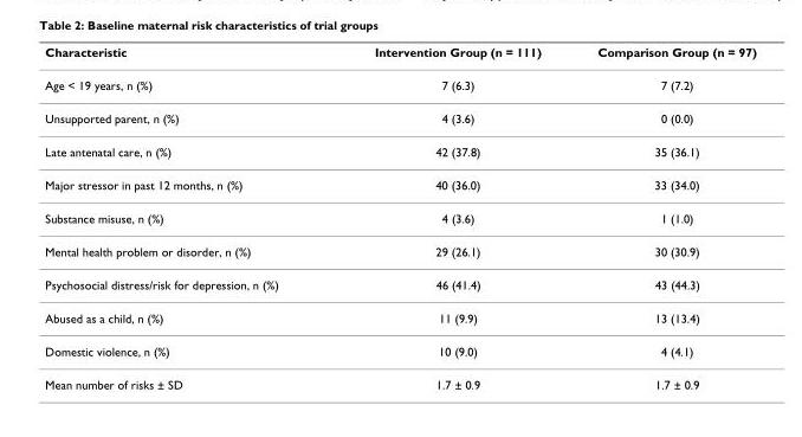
<table><thead><tr><td>Characteristic</td><td>Intervention Group (n = 111)</td><td>Comparison Group (n = 97)</td></tr></thead><tbody><tr><td>Age &lt; 19 years, n (%)</td><td>7 (6.3)</td><td>7 (7.2)</td></tr><tr><td>Unsupported parent, n (%)</td><td>4 (3.6)</td><td>0 (0.0)</td></tr><tr><td>Late antenatal care, n (%)</td><td>42 (37.8)</td><td>35 (36.1)</td></tr><tr><td>Major stressor in past 12 months, n (%)</td><td>40 (36.0)</td><td>33 (34.0)</td></tr><tr><td>Substance misuse, n (%)</td><td>4 (3.6)</td><td>1 (1.0)</td></tr><tr><td>Mental health problem or disorder, n (%)</td><td>29 (26.1)</td><td>30 (30.9)</td></tr><tr><td>Psychosocial distress/risk for depression, n (%)</td><td>46 (41.4)</td><td>43 (44.3)</td></tr><tr><td>Abused as a child, n (%)</td><td>11 (9.9)</td><td>13 (13.4)</td></tr><tr><td>Domestic violence, n (%)</td><td>10 (9.0)</td><td>4 (4.1)</td></tr><tr><td>Mean number of risks ± SD</td><td>1.7 ± 0.9</td><td>1.7 ± 0.9</td></tr></tbody></table>